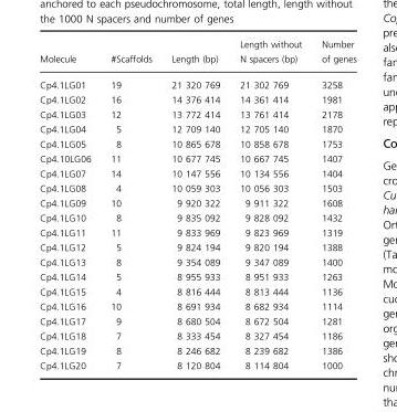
<table><thead><tr><td>Molecule</td><td>#Scaffolds</td><td>Length (bp)</td><td>Length without N spacers (bp)</td><td>Number of genes</td></tr></thead><tbody><tr><td>Cp4.1LG01</td><td>19</td><td>21 320 769</td><td>21 302 769</td><td>3258</td></tr><tr><td>Cp4.1LG02</td><td>16</td><td>14 376 414</td><td>14 361 414</td><td>1981</td></tr><tr><td>Cp4.1LG03</td><td>12</td><td>13 772 414</td><td>13 761 414</td><td>2178</td></tr><tr><td>Cp4.1LG04</td><td>5</td><td>12 709 140</td><td>12 705 140</td><td>1870</td></tr><tr><td>Cp4.1LG05</td><td>8</td><td>10 865 678</td><td>10 858 678</td><td>1753</td></tr><tr><td>Cp4.10LG06</td><td>11</td><td>10 677 745</td><td>10 667 745</td><td>1407</td></tr><tr><td>Cp4.1LG07</td><td>14</td><td>10 147 556</td><td>10 134 556</td><td>1404</td></tr><tr><td>Cp4.1LG08</td><td>4</td><td>10 059 303</td><td>10 056 303</td><td>1503</td></tr><tr><td>Cp4.1LG09</td><td>10</td><td>9 920 322</td><td>9 911 322</td><td>1608</td></tr><tr><td>Cp4.1LG10</td><td>8</td><td>9 835 092</td><td>9 828 092</td><td>1432</td></tr><tr><td>Cp4.1LG11</td><td>11</td><td>9 833 969</td><td>9 823 969</td><td>1319</td></tr><tr><td>Cp4.1LG12</td><td>5</td><td>9 824 194</td><td>9 820 194</td><td>1388</td></tr><tr><td>Cp4.1LG13</td><td>8</td><td>9 354 089</td><td>9 347 089</td><td>1400</td></tr><tr><td>Cp4.1LG14</td><td>5</td><td>8 955 933</td><td>8 951 933</td><td>1263</td></tr><tr><td>Cp4.1LG15</td><td>4</td><td>8 816 444</td><td>8 813 444</td><td>1136</td></tr><tr><td>Cp4.1LG16</td><td>10</td><td>8 691 934</td><td>8 682 934</td><td>1114</td></tr><tr><td>Cp4.1LG17</td><td>9</td><td>8 680 504</td><td>8 672 504</td><td>1281</td></tr><tr><td>Cp4.1LG18</td><td>7</td><td>8 333 454</td><td>8 327 454</td><td>1186</td></tr><tr><td>Cp4.1LG19</td><td>8</td><td>8 246 682</td><td>8 239 682</td><td>1386</td></tr><tr><td>Cp4.1LG20</td><td>7</td><td>8 120 804</td><td>8 114 804</td><td>1000</td></tr></tbody></table>